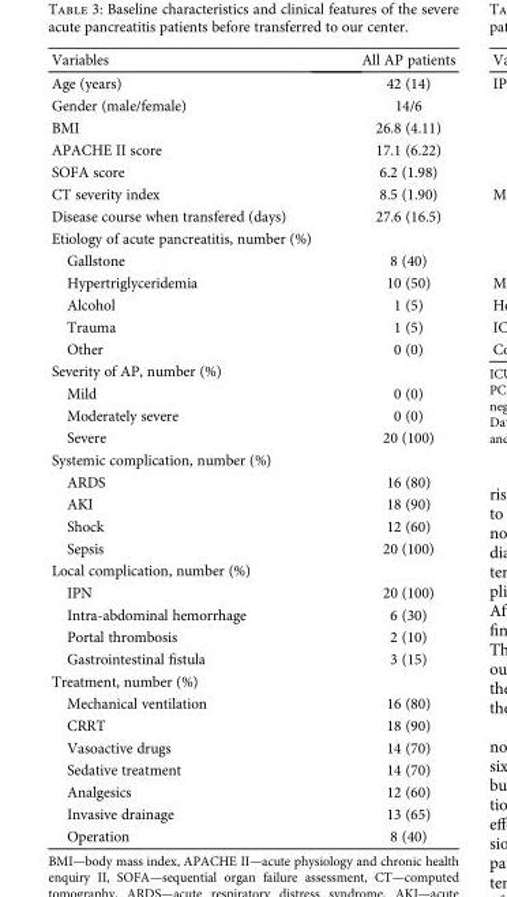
<table><thead><tr><td>Variables</td><td>All AP patients</td></tr></thead><tbody><tr><td>Age (years)</td><td>42 (14)</td></tr><tr><td>Gender (male/female)</td><td>14/6</td></tr><tr><td>BMI</td><td>26.8 (4.11)</td></tr><tr><td>APACHE II score</td><td>17.1 (6.22)</td></tr><tr><td>SOFA score</td><td>6.2 (1.98)</td></tr><tr><td>CT severity index</td><td>8.5 (1.90)</td></tr><tr><td>Disease course when transfered (days)</td><td>27.6 (16.5)</td></tr><tr><td colspan="2">Etiology of acute pancreatitis, number (%)</td></tr><tr><td>Gallstone</td><td>8 (40)</td></tr><tr><td>Hypertriglyceridemia</td><td>10 (50)</td></tr><tr><td>Alcohol</td><td>1 (5)</td></tr><tr><td>Trauma</td><td>1 (5)</td></tr><tr><td>Other</td><td>0 (0)</td></tr><tr><td colspan="2">Severity of AP, number (%)</td></tr><tr><td>Mild</td><td>0 (0)</td></tr><tr><td>Moderately severe</td><td>0 (0)</td></tr><tr><td>Severe</td><td>20 (100)</td></tr><tr><td colspan="2">Systemic complication, number (%)</td></tr><tr><td>ARDS</td><td>16 (80)</td></tr><tr><td>AKI</td><td>18 (90)</td></tr><tr><td>Shock</td><td>12 (60)</td></tr><tr><td>Sepsis</td><td>20 (100)</td></tr><tr><td colspan="2">Local complication, number (%)</td></tr><tr><td>IPN</td><td>20 (100)</td></tr><tr><td>Intra-abdominal hemorrhage</td><td>6 (30)</td></tr><tr><td>Portal thrombosis</td><td>2 (10)</td></tr><tr><td>Gastrointestinal fistula</td><td>3 (15)</td></tr><tr><td colspan="2">Treatment, number (%)</td></tr><tr><td>Mechanical ventilation</td><td>16 (80)</td></tr><tr><td>CRRT</td><td>18 (90)</td></tr><tr><td>Vasoactive drugs</td><td>14 (70)</td></tr><tr><td>Sedative treatment</td><td>14 (70)</td></tr><tr><td>Analgesics</td><td>12 (60)</td></tr><tr><td>Invasive drainage</td><td>13 (65)</td></tr><tr><td>Operation</td><td>8 (40)</td></tr></tbody></table>